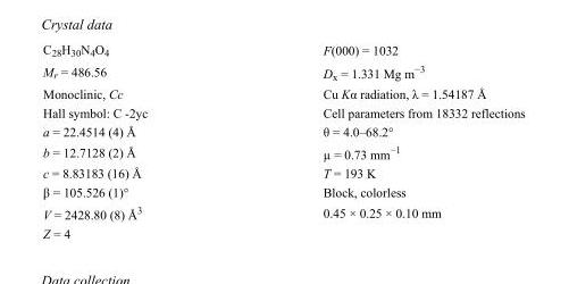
<table><tbody><tr><td>C<sub>28</sub>H<sub>30</sub>N<sub>4</sub>O<sub>4</sub></td><td>F(000) = 1032</td></tr><tr><td>M<sub>r</sub> = 486.56</td><td>D<sub>x</sub> = 1.331 Mg m<sup>−3</sup></td></tr><tr><td>Monoclinic, Cc</td><td>Cu Kα radiation, λ = 1.54187 Å</td></tr><tr><td>Hall symbol: C -2yc</td><td>Cell parameters from 18332 reflections</td></tr><tr><td>a = 22.4514 (4) Å</td><td>θ = 4.0–68.2°</td></tr><tr><td>b = 12.7128 (2) Å</td><td>µ = 0.73 mm<sup>−1</sup></td></tr><tr><td>c = 8.83183 (16) Å</td><td>T = 193 K</td></tr><tr><td>β = 105.526 (1)°</td><td>Block, colorless</td></tr><tr><td>V = 2428.80 (8) Å<sup>3</sup></td><td>0.45 × 0.25 × 0.10 mm</td></tr><tr><td>Z = 4</td><td></td></tr></tbody></table>